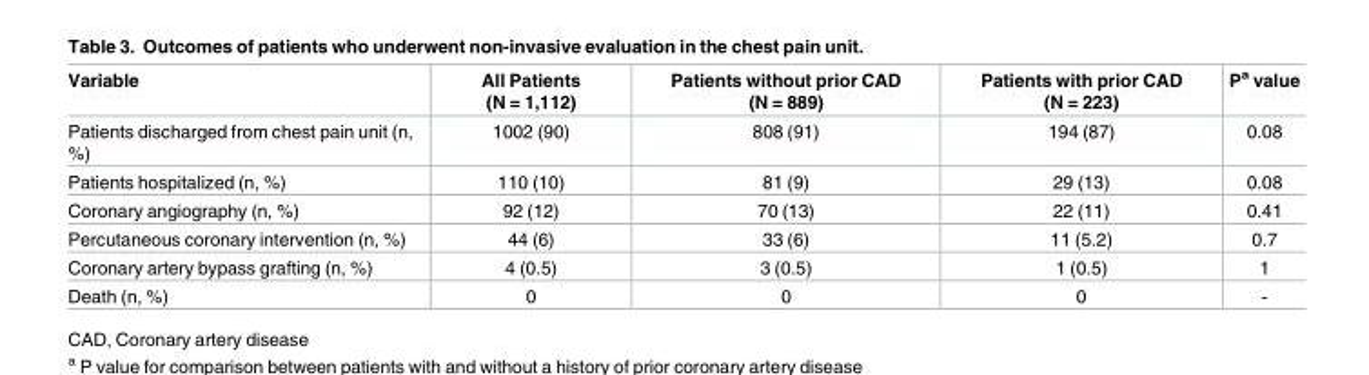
<table><thead><tr><td>Variable</td><td>All Patients (N = 1,112)</td><td>Patients without prior CAD (N = 889)</td><td>Patients with prior CAD (N = 223)</td><td>P<sup>a</sup> value</td></tr></thead><tbody><tr><td>Patients discharged from chest pain unit (n, %)</td><td>1002 (90)</td><td>808 (91)</td><td>194 (87)</td><td>0.08</td></tr><tr><td>Patients hospitalized (n, %)</td><td>110 (10)</td><td>81 (9)</td><td>29 (13)</td><td>0.08</td></tr><tr><td>Coronary angiography (n, %)</td><td>92 (12)</td><td>70 (13)</td><td>22 (11)</td><td>0.41</td></tr><tr><td>Percutaneous coronary intervention (n, %)</td><td>44 (6)</td><td>33 (6)</td><td>11 (5.2)</td><td>0.7</td></tr><tr><td>Coronary artery bypass grafting (n, %)</td><td>4 (0.5)</td><td>3 (0.5)</td><td>1 (0.5)</td><td>1</td></tr><tr><td>Death (n, %)</td><td>0</td><td>0</td><td>0</td><td>-</td></tr></tbody></table>